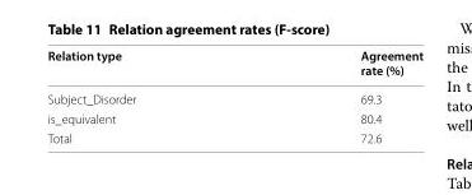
<table><thead><tr><td>Relation type</td><td>Agreement rate (%)</td></tr></thead><tbody><tr><td>Subject_Disorder</td><td>69.3</td></tr><tr><td>is_equivalent</td><td>80.4</td></tr><tr><td>Total</td><td>72.6</td></tr></tbody></table>